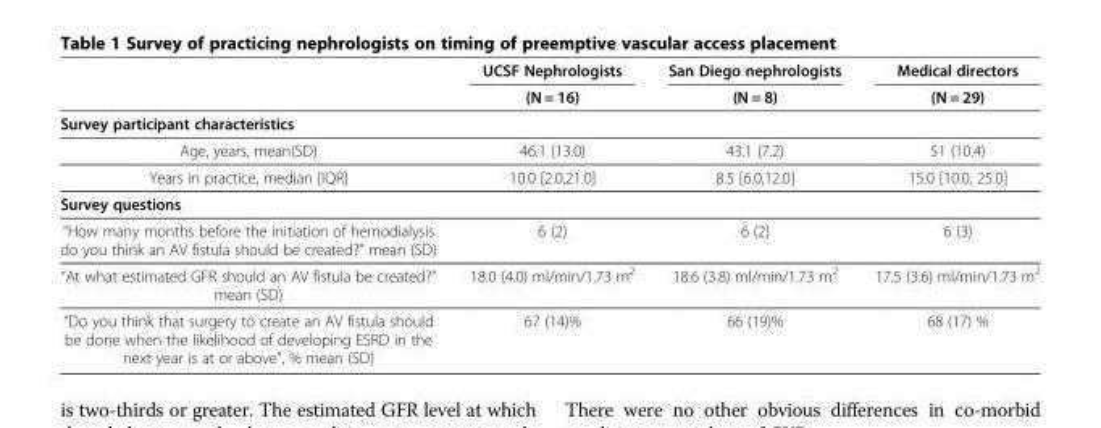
<table><thead><tr><td rowspan="2"></td><td rowspan="2">UCSF Nephrologists (N = 16)</td><td rowspan="2">San Diego nephrologists (N = 8)</td><td rowspan="2">Medical directors (N = 29)</td></tr><tr></tr></thead><tbody><tr><td colspan="4">Survey participant characteristics</td></tr><tr><td>Age, years, mean(SD)</td><td>46.1 (13.0)</td><td>43.1 (7.2)</td><td>51 (10.4)</td></tr><tr><td>Years in practice, median [IQR]</td><td>10.0 [2.0,21.0]</td><td>8.5 [6.0,12.0]</td><td>15.0 [10.0, 25.0]</td></tr><tr><td colspan="4">Survey questions</td></tr><tr><td>“How many months before the initiation of hemodialysis do you think an AV fistula should be created?” mean (SD)</td><td>6 (2)</td><td>6 (2)</td><td>6 (3)</td></tr><tr><td>“At what estimated GFR should an AV fistula be created?” mean (SD)</td><td>18.0 (4.0) ml/min/1.73 m<sup>2</sup></td><td>18.6 (3.8) ml/min/1.73 m<sup>2</sup></td><td>17.5 (3.6) ml/min/1.73 m<sup>2</sup></td></tr><tr><td>“Do you think that surgery to create an AV fistula should be done when the likelihood of developing ESRD in the next year is at or above”, % mean (SD)</td><td>67 (14)%</td><td>66 (19)%</td><td>68 (17) %</td></tr></tbody></table>